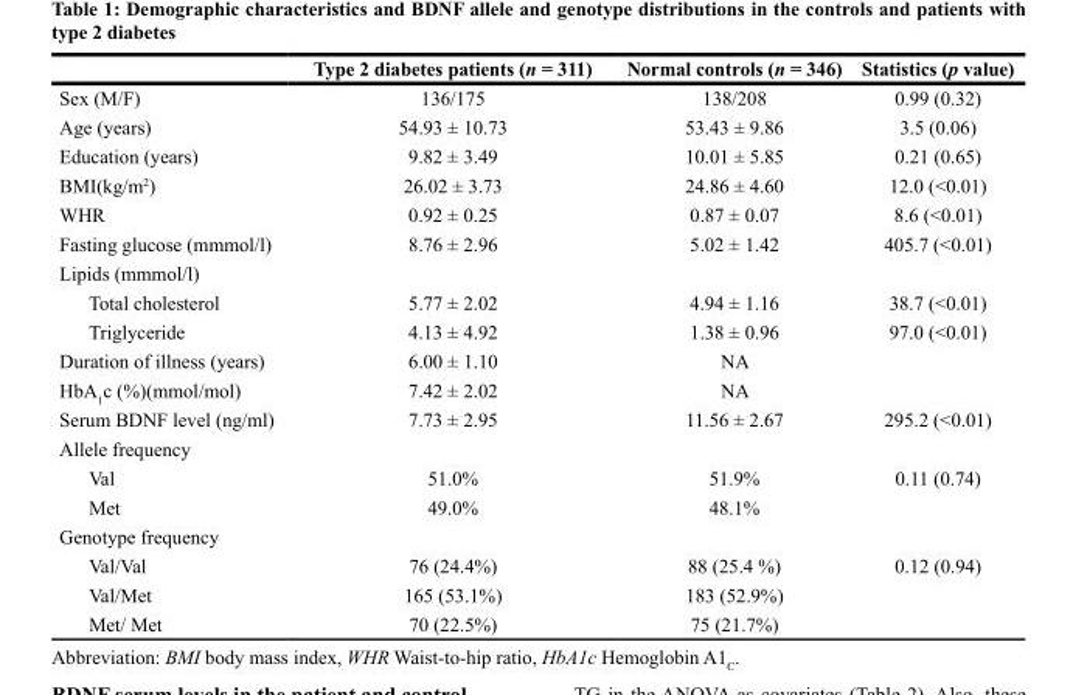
<table><thead><tr><td></td><td>Type 2 diabetes patients (n = 311)</td><td>Normal controls (n = 346)</td><td>Statistics (p value)</td></tr></thead><tbody><tr><td>Sex (M/F)</td><td>136/175</td><td>138/208</td><td>0.99 (0.32)</td></tr><tr><td>Age (years)</td><td>54.93 ± 10.73</td><td>53.43 ± 9.86</td><td>3.5 (0.06)</td></tr><tr><td>Education (years)</td><td>9.82 ± 3.49</td><td>10.01 ± 5.85</td><td>0.21 (0.65)</td></tr><tr><td>BMI(kg/m<sup>2</sup>)</td><td>26.02 ± 3.73</td><td>24.86 ± 4.60</td><td>12.0 (&lt;0.01)</td></tr><tr><td>WHR</td><td>0.92 ± 0.25</td><td>0.87 ± 0.07</td><td>8.6 (&lt;0.01)</td></tr><tr><td>Fasting glucose (mmmol/l)</td><td>8.76 ± 2.96</td><td>5.02 ± 1.42</td><td>405.7 (&lt;0.01)</td></tr><tr><td colspan="4">Lipids (mmmol/l)</td></tr><tr><td>Total cholesterol</td><td>5.77 ± 2.02</td><td>4.94 ± 1.16</td><td>38.7 (&lt;0.01)</td></tr><tr><td>Triglyceride</td><td>4.13 ± 4.92</td><td>1.38 ± 0.96</td><td>97.0 (&lt;0.01)</td></tr><tr><td>Duration of illness (years)</td><td>6.00 ± 1.10</td><td>NA</td><td></td></tr><tr><td>HbA<sub>1</sub>c (%)(mmol/mol)</td><td>7.42 ± 2.02</td><td>NA</td><td></td></tr><tr><td>Serum BDNF level (ng/ml)</td><td>7.73 ± 2.95</td><td>11.56 ± 2.67</td><td>295.2 (&lt;0.01)</td></tr><tr><td colspan="4">Allele frequency</td></tr><tr><td>Val</td><td>51.0%</td><td>51.9%</td><td>0.11 (0.74)</td></tr><tr><td>Met</td><td>49.0%</td><td>48.1%</td><td></td></tr><tr><td colspan="4">Genotype frequency</td></tr><tr><td>Val/Val</td><td>76 (24.4%)</td><td>88 (25.4 %)</td><td>0.12 (0.94)</td></tr><tr><td>Val/Met</td><td>165 (53.1%)</td><td>183 (52.9%)</td><td></td></tr><tr><td>Met/ Met</td><td>70 (22.5%)</td><td>75 (21.7%)</td><td></td></tr></tbody></table>